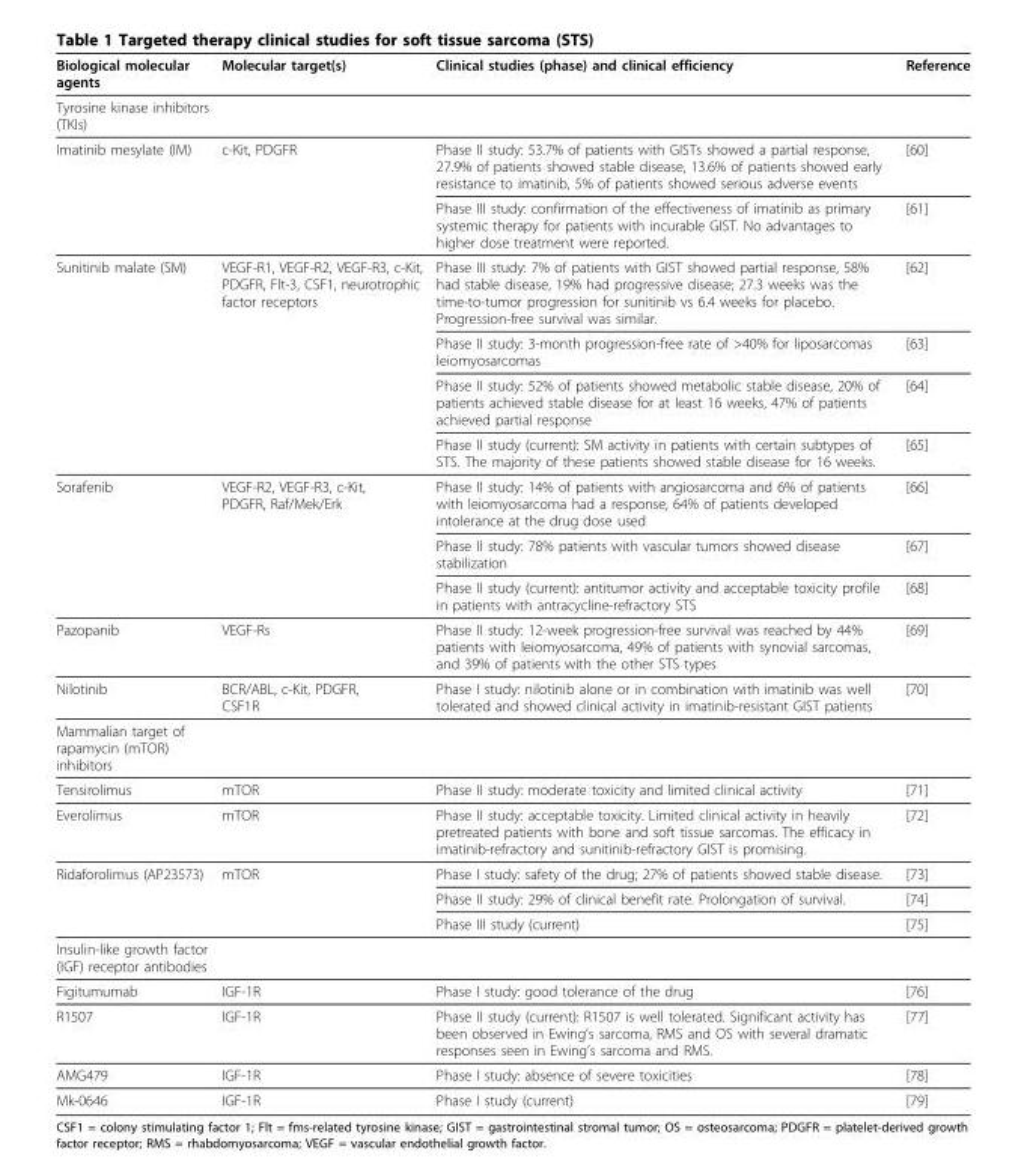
<table><thead><tr><td>Biological molecular agents</td><td>Molecular target(s)</td><td>Clinical studies (phase) and clinical efficiency</td><td>Reference</td></tr></thead><tbody><tr><td colspan="4">Tyrosine kinase inhibitors (TKIs)</td></tr><tr><td rowspan="2">Imatinib mesylate (IM)</td><td>c-Kit, PDGFR</td><td>Phase II study: 53.7% of patients with GISTs showed a partial response, 27.9% of patients showed stable disease, 13.6% of patients showed early resistance to imatinib, 5% of patients showed serious adverse events</td><td>[60]</td></tr><tr><td></td><td>Phase III study: confirmation of the effectiveness of imatinib as primary systemic therapy for patients with incurable GIST. No advantages to higher dose treatment were reported.</td><td>[61]</td></tr><tr><td rowspan="4">Sunitinib malate (SM)</td><td>VEGF-R1, VEGF-R2, VEGF-R3, c-Kit, PDGFR, Flt-3, CSF1, neurotrophic factor receptors</td><td>Phase III study: 7% of patients with GIST showed partial response, 58% had stable disease, 19% had progressive disease; 27.3 weeks was the time-to-tumor progression for sunitinib vs 6.4 weeks for placebo. Progression-free survival was similar.</td><td>[62]</td></tr><tr><td></td><td>Phase II study: 3-month progression-free rate of &gt;40% for liposarcomas leiomyosarcomas</td><td>[63]</td></tr><tr><td></td><td>Phase II study: 52% of patients showed metabolic stable disease, 20% of patients achieved stable disease for at least 16 weeks, 47% of patients achieved partial response</td><td>[64]</td></tr><tr><td></td><td>Phase II study (current): SM activity in patients with certain subtypes of STS. The majority of these patients showed stable disease for 16 weeks.</td><td>[65]</td></tr><tr><td rowspan="3">Sorafenib</td><td>VEGF-R2, VEGF-R3, c-Kit, PDGFR, Raf/Mek/Erk</td><td>Phase II study: 14% of patients with angiosarcoma and 6% of patients with leiomyosarcoma had a response, 64% of patients developed intolerance at the drug dose used</td><td>[66]</td></tr><tr><td></td><td>Phase II study: 78% patients with vascular tumors showed disease stabilization</td><td>[67]</td></tr><tr><td></td><td>Phase II study (current): antitumor activity and acceptable toxicity profile in patients with antracycline-refractory STS</td><td>[68]</td></tr><tr><td>Pazopanib</td><td>VEGF-Rs</td><td>Phase II study: 12-week progression-free survival was reached by 44% patients with leiomyosarcoma, 49% of patients with synovial sarcomas, and 39% of patients with the other STS types</td><td>[69]</td></tr><tr><td>Nilotinib</td><td>BCR/ABL, c-Kit, PDGFR, CSF1R</td><td>Phase I study: nilotinib alone or in combination with imatinib was well tolerated and showed clinical activity in imatinib-resistant GIST patients</td><td>[70]</td></tr><tr><td colspan="4">Mammalian target of rapamycin (mTOR) inhibitors</td></tr><tr><td>Tensirolimus</td><td>mTOR</td><td>Phase II study: moderate toxicity and limited clinical activity</td><td>[71]</td></tr><tr><td>Everolimus</td><td>mTOR</td><td>Phase II study: acceptable toxicity. Limited clinical activity in heavily pretreated patients with bone and soft tissue sarcomas. The efficacy in imatinib-refractory and sunitinib-refractory GIST is promising.</td><td>[72]</td></tr><tr><td rowspan="3">Ridaforolimus (AP23573)</td><td>mTOR</td><td>Phase I study: safety of the drug; 27% of patients showed stable disease.</td><td>[73]</td></tr><tr><td></td><td>Phase II study: 29% of clinical benefit rate. Prolongation of survival.</td><td>[74]</td></tr><tr><td></td><td>Phase III study (current)</td><td>[75]</td></tr><tr><td colspan="4">Insulin-like growth factor (IGF) receptor antibodies</td></tr><tr><td>Figitumumab</td><td>IGF-1R</td><td>Phase I study: good tolerance of the drug</td><td>[76]</td></tr><tr><td>R1507</td><td>IGF-1R</td><td>Phase II study (current): R1507 is well tolerated. Significant activity has been observed in Ewing’s sarcoma, RMS and OS with several dramatic responses seen in Ewing’s sarcoma and RMS.</td><td>[77]</td></tr><tr><td>AMG479</td><td>IGF-1R</td><td>Phase I study: absence of severe toxicities</td><td>[78]</td></tr><tr><td>Mk-0646</td><td>IGF-1R</td><td>Phase I study (current)</td><td>[79]</td></tr></tbody></table>